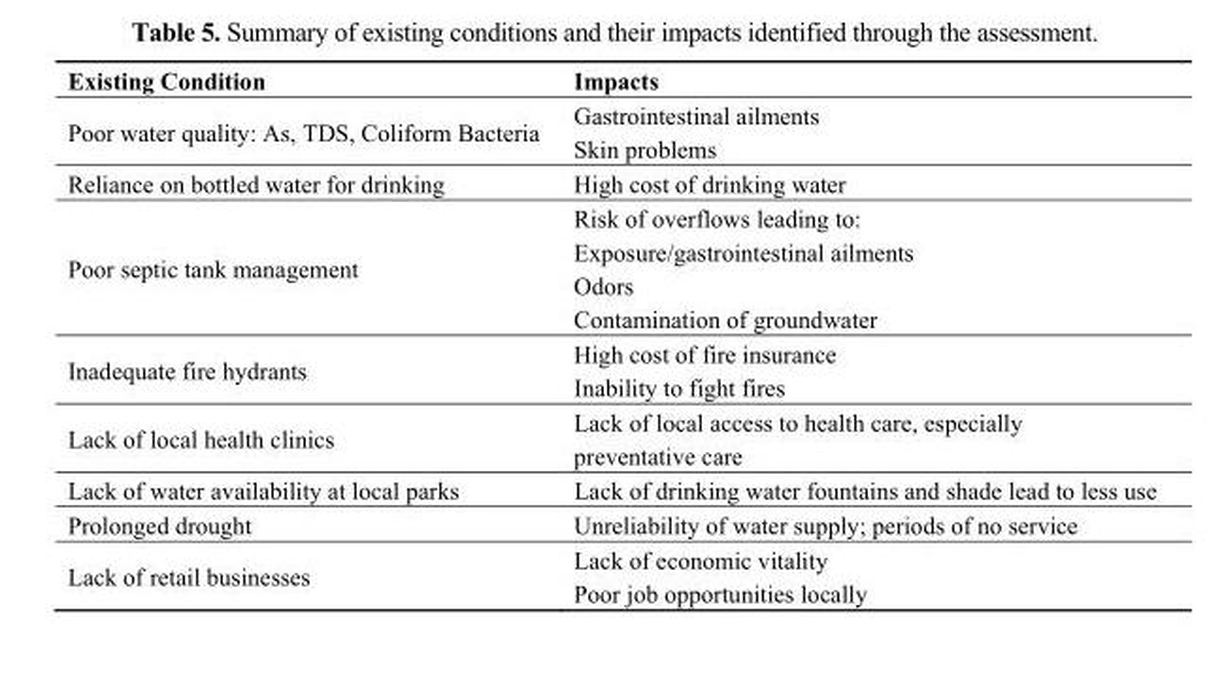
<table><thead><tr><td>Existing Condition</td><td>Impacts</td></tr></thead><tbody><tr><td>Poor water quality: As, TDS, Coliform Bacteria</td><td>Gastrointestinal ailments Skin problems</td></tr><tr><td>Reliance on bottled water for drinking</td><td>High cost of drinking water</td></tr><tr><td>Poor septic tank management</td><td>Risk of overflows leading to: Exposure/gastrointestinal ailments Odors Contamination of groundwater</td></tr><tr><td>Inadequate fire hydrants</td><td>High cost of fire insurance Inability to fight fires</td></tr><tr><td>Lack of local health clinics</td><td>Lack of local access to health care, especially preventative care</td></tr><tr><td>Lack of water availability at local parks</td><td>Lack of drinking water fountains and shade lead to less use</td></tr><tr><td>Prolonged drought</td><td>Unreliability of water supply; periods of no service</td></tr><tr><td>Lack of retail businesses</td><td>Lack of economic vitality Poor job opportunities locally</td></tr></tbody></table>